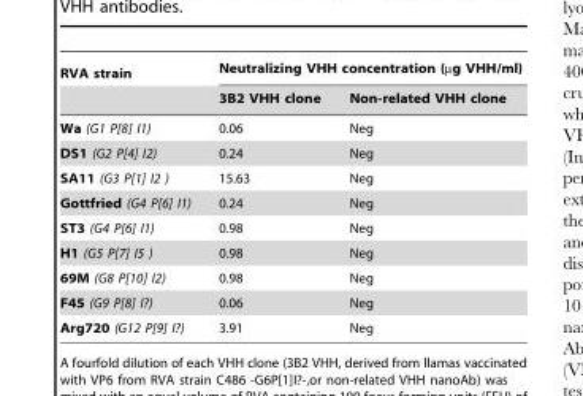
<table><thead><tr><td rowspan="2">RVA strain</td><td colspan="2">Neutralizing VHH concentration (µg VHH/ml)</td></tr><tr><td>3B2 VHH clone</td><td>Non-related VHH clone</td></tr></thead><tbody><tr><td>Wa (G1 P[8] I1)</td><td>0.06</td><td>Neg</td></tr><tr><td>DS1 (G2 P[4] I2)</td><td>0.24</td><td>Neg</td></tr><tr><td>SA11 (G3 P[1] I2 )</td><td>15.63</td><td>Neg</td></tr><tr><td>Gottfried (G4 P[6] I1)</td><td>0.24</td><td>Neg</td></tr><tr><td>ST3 (G4 P[6] I1)</td><td>0.98</td><td>Neg</td></tr><tr><td>H1 (G5 P[7] I5 )</td><td>0.98</td><td>Neg</td></tr><tr><td>69M (G8 P[10] I2)</td><td>0.98</td><td>Neg</td></tr><tr><td>F45 (G9 P[8] I?)</td><td>0.06</td><td>Neg</td></tr><tr><td>Arg720 (G12 P[9] I?)</td><td>3.91</td><td>Neg</td></tr></tbody></table>